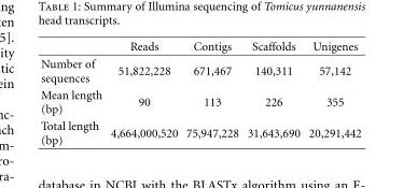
<table><thead><tr><td></td><td>Reads</td><td>Contigs</td><td>Scaffolds</td><td>Unigenes</td></tr></thead><tbody><tr><td>Number of sequences</td><td>51,822,228</td><td>671,467</td><td>140,311</td><td>57,142</td></tr><tr><td>Mean length (bp)</td><td>90</td><td>113</td><td>226</td><td>355</td></tr><tr><td>Total length (bp)</td><td>4,664,000,520</td><td>75,947,228</td><td>31,643,690</td><td>20,291,442</td></tr></tbody></table>